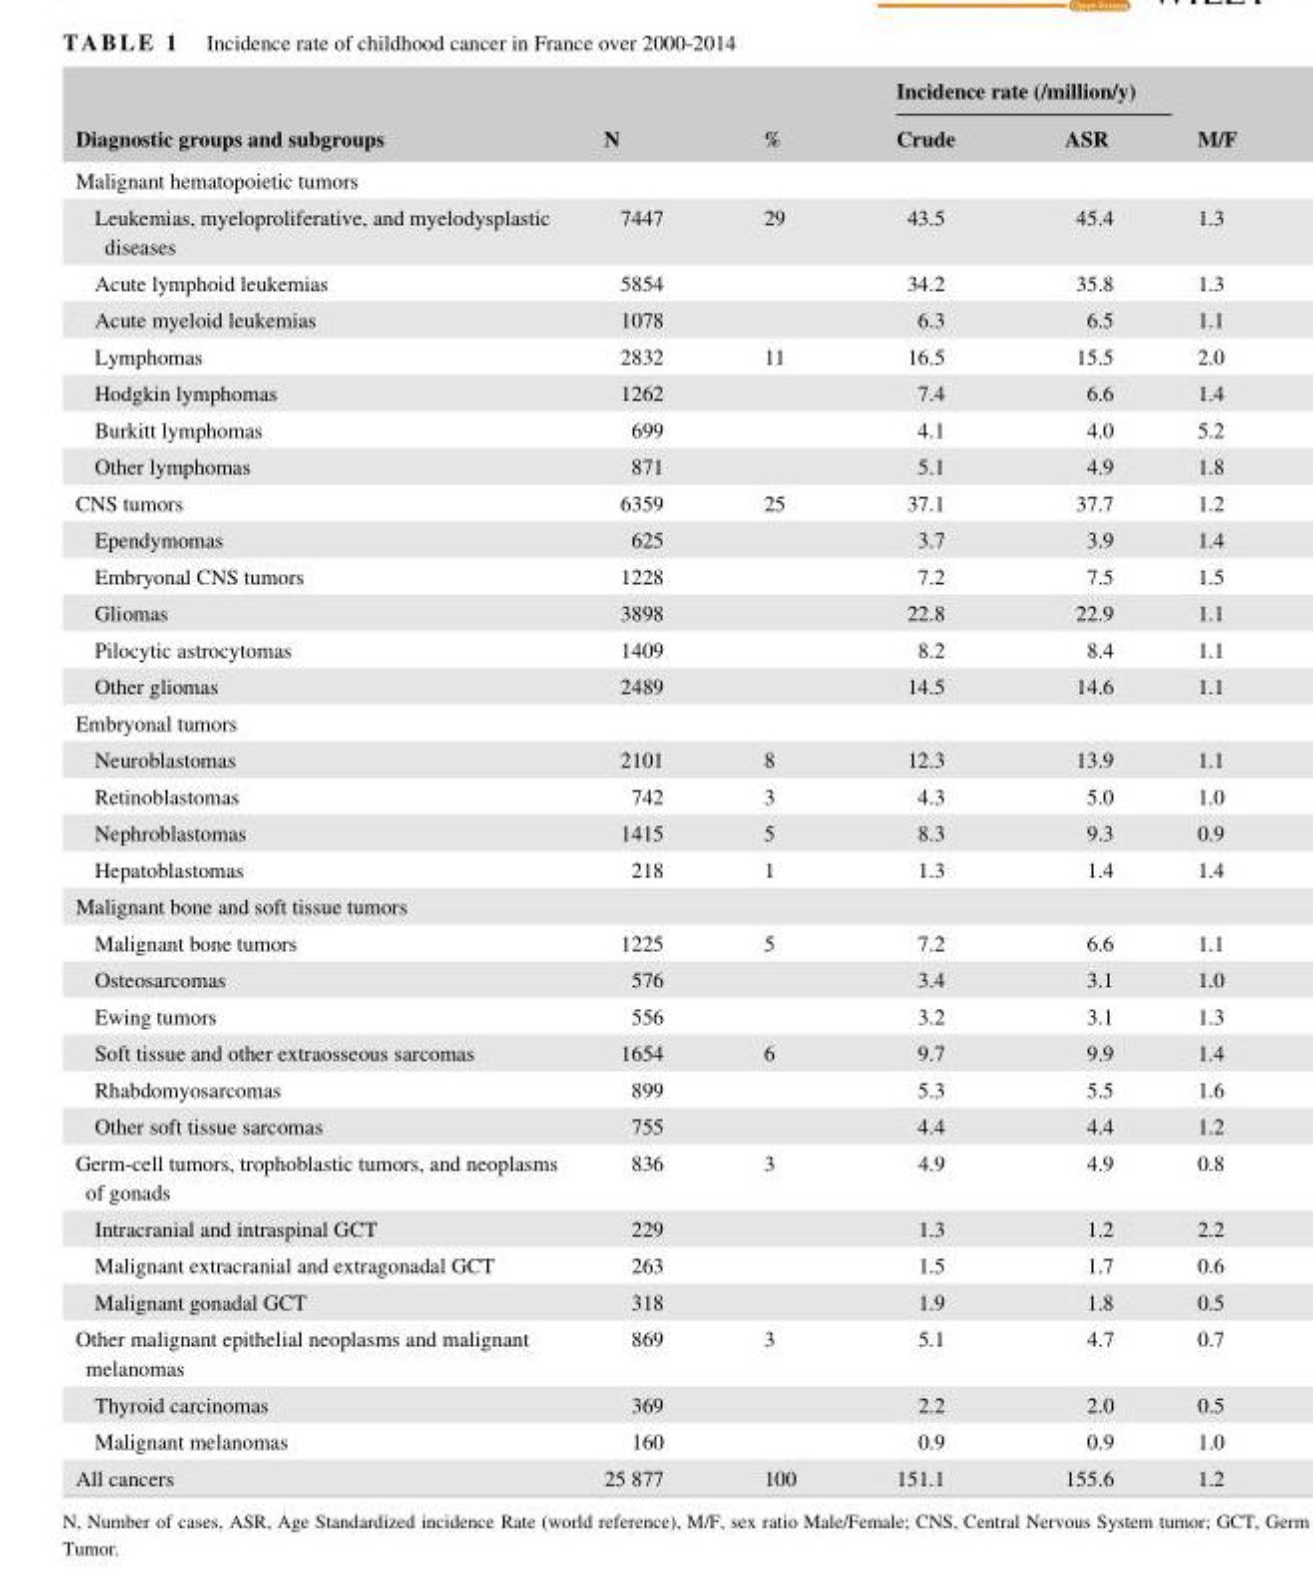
<table><thead><tr><td rowspan="2">Diagnostic groups and subgroups</td><td rowspan="2">N</td><td rowspan="2">%</td><td colspan="2">Incidence rate (/million/y)</td><td rowspan="2">M/F</td></tr><tr><td>Crude</td><td>ASR</td></tr></thead><tbody><tr><td colspan="6">Malignant hematopoietic tumors</td></tr><tr><td>Leukemias, myeloproliferative, and myelodysplastic diseases</td><td>7447</td><td>29</td><td>43.5</td><td>45.4</td><td>1.3</td></tr><tr><td>Acute lymphoid leukemias</td><td>5854</td><td></td><td>34.2</td><td>35.8</td><td>1.3</td></tr><tr><td>Acute myeloid leukemias</td><td>1078</td><td></td><td>6.3</td><td>6.5</td><td>1.1</td></tr><tr><td>Lymphomas</td><td>2832</td><td>11</td><td>16.5</td><td>15.5</td><td>2.0</td></tr><tr><td>Hodgkin lymphomas</td><td>1262</td><td></td><td>7.4</td><td>6.6</td><td>1.4</td></tr><tr><td>Burkitt lymphomas</td><td>699</td><td></td><td>4.1</td><td>4.0</td><td>5.2</td></tr><tr><td>Other lymphomas</td><td>871</td><td></td><td>5.1</td><td>4.9</td><td>1.8</td></tr><tr><td>CNS tumors</td><td>6359</td><td>25</td><td>37.1</td><td>37.7</td><td>1.2</td></tr><tr><td>Ependymomas</td><td>625</td><td></td><td>3.7</td><td>3.9</td><td>1.4</td></tr><tr><td>Embryonal CNS tumors</td><td>1228</td><td></td><td>7.2</td><td>7.5</td><td>1.5</td></tr><tr><td>Gliomas</td><td>3898</td><td></td><td>22.8</td><td>22.9</td><td>1.1</td></tr><tr><td>Pilocytic astrocytomas</td><td>1409</td><td></td><td>8.2</td><td>8.4</td><td>1.1</td></tr><tr><td>Other gliomas</td><td>2489</td><td></td><td>14.5</td><td>14.6</td><td>1.1</td></tr><tr><td colspan="6">Embryonal tumors</td></tr><tr><td>Neuroblastomas</td><td>2101</td><td>8</td><td>12.3</td><td>13.9</td><td>1.1</td></tr><tr><td>Retinoblastomas</td><td>742</td><td>3</td><td>4.3</td><td>5.0</td><td>1.0</td></tr><tr><td>Nephroblastomas</td><td>1415</td><td>5</td><td>8.3</td><td>9.3</td><td>0.9</td></tr><tr><td>Hepatoblastomas</td><td>218</td><td>1</td><td>1.3</td><td>1.4</td><td>1.4</td></tr><tr><td colspan="6">Malignant bone and soft tissue tumors</td></tr><tr><td>Malignant bone tumors</td><td>1225</td><td>5</td><td>7.2</td><td>6.6</td><td>1.1</td></tr><tr><td>Osteosarcomas</td><td>576</td><td></td><td>3.4</td><td>3.1</td><td>1.0</td></tr><tr><td>Ewing tumors</td><td>556</td><td></td><td>3.2</td><td>3.1</td><td>1.3</td></tr><tr><td>Soft tissue and other extraosseous sarcomas</td><td>1654</td><td>6</td><td>9.7</td><td>9.9</td><td>1.4</td></tr><tr><td>Rhabdomyosarcomas</td><td>899</td><td></td><td>5.3</td><td>5.5</td><td>1.6</td></tr><tr><td>Other soft tissue sarcomas</td><td>755</td><td></td><td>4.4</td><td>4.4</td><td>1.2</td></tr><tr><td>Germ- cell tumors, trophoblastic tumors, and neoplasms of gonads</td><td>836</td><td>3</td><td>4.9</td><td>4.9</td><td>0.8</td></tr><tr><td>Intracranial and intraspinal GCT</td><td>229</td><td></td><td>1.3</td><td>1.2</td><td>2.2</td></tr><tr><td>Malignant extracranial and extragonadal GCT</td><td>263</td><td></td><td>1.5</td><td>1.7</td><td>0.6</td></tr><tr><td>Malignant gonadal GCT</td><td>318</td><td></td><td>1.9</td><td>1.8</td><td>0.5</td></tr><tr><td>Other malignant epithelial neoplasms and malignant melanomas</td><td>869</td><td>3</td><td>5.1</td><td>4.7</td><td>0.7</td></tr><tr><td>Thyroid carcinomas</td><td>369</td><td></td><td>2.2</td><td>2.0</td><td>0.5</td></tr><tr><td>Malignant melanomas</td><td>160</td><td></td><td>0.9</td><td>0.9</td><td>1.0</td></tr><tr><td>All cancers</td><td>25 877</td><td>100</td><td>151.1</td><td>155.6</td><td>1.2</td></tr></tbody></table>